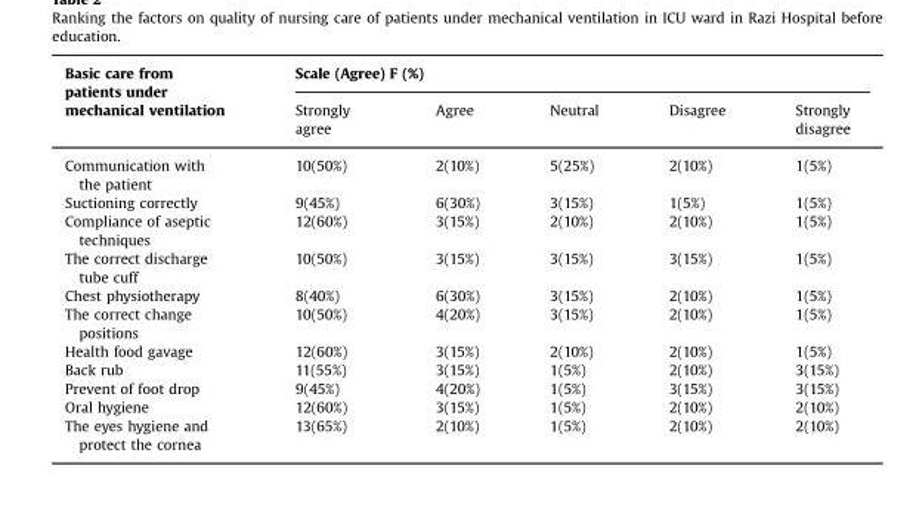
<table><thead><tr><td rowspan="2">Basic care from patients under mechanical ventilation</td><td colspan="5">Scale (Agree) F (%)</td></tr><tr><td>Strongly agree</td><td>Agree</td><td>Neutral</td><td>Disagree</td><td>Strongly disagree</td></tr></thead><tbody><tr><td>Communication with the patient</td><td>10(50%)</td><td>2(10%)</td><td>5(25%)</td><td>2(10%)</td><td>1(5%)</td></tr><tr><td>Suctioning correctly</td><td>9(45%)</td><td>6(30%)</td><td>3(15%)</td><td>1(5%)</td><td>1(5%)</td></tr><tr><td>Compliance of aseptic techniques</td><td>12(60%)</td><td>3(15%)</td><td>2(10%)</td><td>2(10%)</td><td>1(5%)</td></tr><tr><td>The correct discharge tube cuff</td><td>10(50%)</td><td>3(15%)</td><td>3(15%)</td><td>3(15%)</td><td>1(5%)</td></tr><tr><td>Chest physiotherapy</td><td>8(40%)</td><td>6(30%)</td><td>3(15%)</td><td>2(10%)</td><td>1(5%)</td></tr><tr><td>The correct change positions</td><td>10(50%)</td><td>4(20%)</td><td>3(15%)</td><td>2(10%)</td><td>1(5%)</td></tr><tr><td>Health food gavage</td><td>12(60%)</td><td>3(15%)</td><td>2(10%)</td><td>2(10%)</td><td>1(5%)</td></tr><tr><td>Back rub</td><td>11(55%)</td><td>3(15%)</td><td>1(5%)</td><td>2(10%)</td><td>3(15%)</td></tr><tr><td>Prevent of foot drop</td><td>9(45%)</td><td>4(20%)</td><td>1(5%)</td><td>3(15%)</td><td>3(15%)</td></tr><tr><td>Oral hygiene</td><td>12(60%)</td><td>3(15%)</td><td>1(5%)</td><td>2(10%)</td><td>2(10%)</td></tr><tr><td>The eyes hygiene and protect the cornea</td><td>13(65%)</td><td>2(10%)</td><td>1(5%)</td><td>2(10%)</td><td>2(10%)</td></tr></tbody></table>